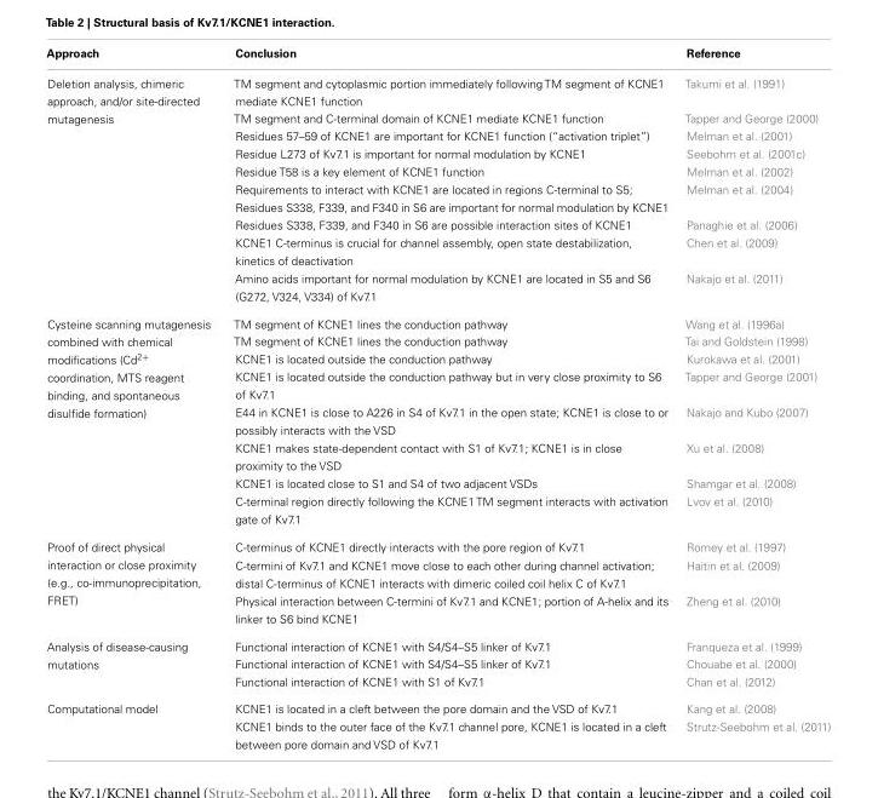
<table><thead><tr><td>Approach</td><td>Conclusion</td><td>Reference</td></tr></thead><tbody><tr><td rowspan="9">Deletion analysis, chimeric approach, and/or site-directed mutagenesis</td><td>TM segment and cytoplasmic portion immediately following TM segment of KCNE1 mediate KCNE1 function</td><td>Takumi et al. (1991)</td></tr><tr><td>TM segment and C-terminal domain of KCNE1 mediate KCNE1 function</td><td>Tapper and George (2000)</td></tr><tr><td>Residues 57–59 of KCNE1 are important for KCNE1 function (“activation triplet”)</td><td>Melman et al. (2001)</td></tr><tr><td>Residue L273 of Kv7.1 is important for normal modulation by KCNE1</td><td>Seebohm et al. (2001c)</td></tr><tr><td>Residue T58 is a key element of KCNE1 function</td><td>Melman et al. (2002)</td></tr><tr><td>Requirements to interact with KCNE1 are located in regions C-terminal to S5; Residues S338, F339, and F340 in S6 are important for normal modulation by KCNE1</td><td>Melman et al. (2004)</td></tr><tr><td>Residues S338, F339, and F340 in S6 are possible interaction sites of KCNE1</td><td>Panaghie et al. (2006)</td></tr><tr><td>KCNE1 C-terminus is crucial for channel assembly, open state destabilization, kinetics of deactivation</td><td>Chen et al. (2009)</td></tr><tr><td>Amino acids important for normal modulation by KCNE1 are located in S5 and S6 (G272, V324, V334) of Kv7.1</td><td>Nakajo et al. (2011)</td></tr><tr><td rowspan="8">Cysteine scanning mutagenesis combined with chemical modifications (Cd<sup>2+</sup> coordination, MTS reagent binding, and spontaneous disulfide formation)</td><td>TM segment of KCNE1 lines the conduction pathway</td><td>Wang et al. (1996a)</td></tr><tr><td>TM segment of KCNE1 lines the conduction pathway</td><td>Tai and Goldstein (1998)</td></tr><tr><td>KCNE1 is located outside the conduction pathway</td><td>Kurokawa et al. (2001)</td></tr><tr><td>KCNE1 is located outside the conduction pathway but in very close proximity to S6 of Kv7.1</td><td>Tapper and George (2001)</td></tr><tr><td>E44 in KCNE1 is close to A226 in S4 of Kv7.1 in the open state; KCNE1 is close to or possibly interacts with the VSD</td><td>Nakajo and Kubo (2007)</td></tr><tr><td>KCNE1 makes state-dependent contact with S1 of Kv7.1; KCNE1 is in close proximity to the VSD</td><td>Xu et al. (2008)</td></tr><tr><td>KCNE1 is located close to S1 and S4 of two adjacent VSDs</td><td>Shamgar et al. (2008)</td></tr><tr><td>C-terminal region directly following the KCNE1 TM segment interacts with activation gate of Kv7.1</td><td>Lvov et al. (2010)</td></tr><tr><td rowspan="3">Proof of direct physical interaction or close proximity (e.g., co-immunoprecipitation, FRET)</td><td>C-terminus of KCNE1 directly interacts with the pore region of Kv7.1</td><td>Romey et al. (1997)</td></tr><tr><td>C-termini of Kv7.1 and KCNE1 move close to each other during channel activation; distal C-terminus of KCNE1 interacts with dimeric coiled coil helix C of Kv7.1</td><td>Haitin et al. (2009)</td></tr><tr><td>Physical interaction between C-termini of Kv7.1 and KCNE1; portion of A-helix and its linker to S6 bind KCNE1</td><td>Zheng et al. (2010)</td></tr><tr><td rowspan="3">Analysis of disease-causing mutations</td><td>Functional interaction of KCNE1 with S4/S4–S5 linker of Kv7.1</td><td>Franqueza et al. (1999)</td></tr><tr><td>Functional interaction of KCNE1 with S4/S4–S5 linker of Kv7.1</td><td>Chouabe et al. (2000)</td></tr><tr><td>Functional interaction of KCNE1 with S1 of Kv7.1</td><td>Chan et al. (2012)</td></tr><tr><td rowspan="2">Computational model</td><td>KCNE1 is located in a cleft between the pore domain and the VSD of Kv7.1</td><td>Kang et al. (2008)</td></tr><tr><td>KCNE1 binds to the outer face of the Kv7.1 channel pore, KCNE1 is located in a cleft between pore domain and VSD of Kv7.1</td><td>Strutz-Seebohm et al. (2011)</td></tr></tbody></table>